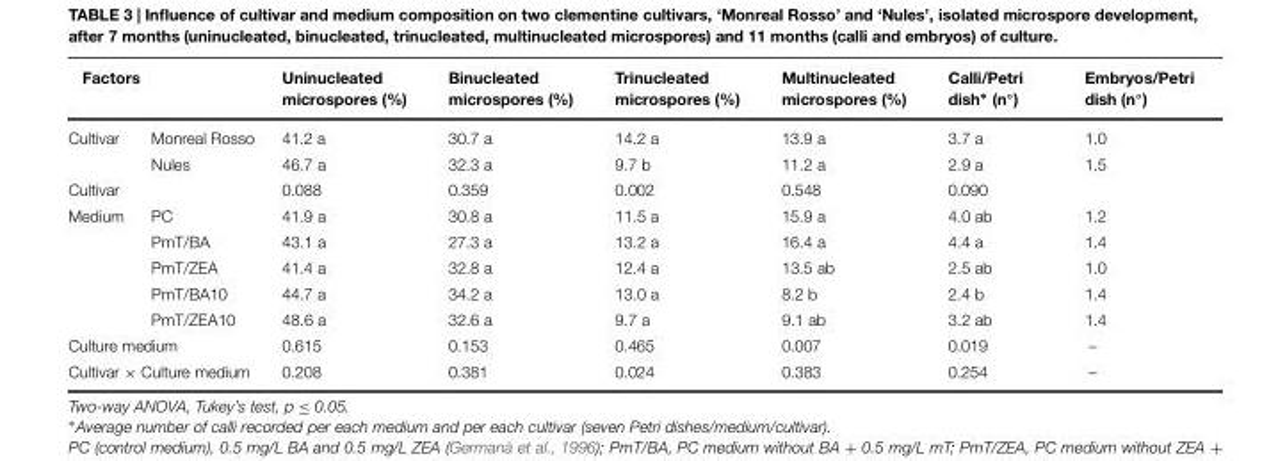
<table><thead><tr><td colspan="2">Factors</td><td rowspan="2">Uninucleated microspores (%) 41.2 a</td><td rowspan="2">Binucleated microspores (%) 30.7 a</td><td rowspan="2">Trinucleated microspores (%) 14.2 a</td><td rowspan="2">Multinucleated microspores (%) 13.9 a</td><td rowspan="2">Calli/Petri dish∗ (n◦) 3.7 a</td><td rowspan="2">Embryos/Petri dish (n◦) 1.0</td></tr><tr><td>Cultivar</td><td>Monreal Rosso</td></tr></thead><tbody><tr><td></td><td>Nules</td><td>46.7 a</td><td>32.3 a</td><td>9.7 b</td><td>11.2 a</td><td>2.9 a</td><td>1.5</td></tr><tr><td>Cultivar</td><td></td><td>0.088</td><td>0.359</td><td>0.002</td><td>0.548</td><td>0.090</td><td></td></tr><tr><td rowspan="5">Medium</td><td>PC</td><td>41.9 a</td><td>30.8 a</td><td>11.5 a</td><td>15.9 a</td><td>4.0 ab</td><td>1.2</td></tr><tr><td>PmT/BA</td><td>43.1 a</td><td>27.3 a</td><td>13.2 a</td><td>16.4 a</td><td>4.4 a</td><td>1.4</td></tr><tr><td>PmT/ZEA</td><td>41.4 a</td><td>32.8 a</td><td>12.4 a</td><td>13.5 ab</td><td>2.5 ab</td><td>1.0</td></tr><tr><td>PmT/BA10</td><td>44.7 a</td><td>34.2 a</td><td>13.0 a</td><td>8.2 b</td><td>2.4 b</td><td>1.4</td></tr><tr><td>PmT/ZEA10</td><td>48.6 a</td><td>32.6 a</td><td>9.7 a</td><td>9.1 ab</td><td>3.2 ab</td><td>1.4</td></tr><tr><td colspan="2">Culture medium</td><td>0.615</td><td>0.153</td><td>0.465</td><td>0.007</td><td>0.019</td><td>–</td></tr><tr><td colspan="2">Cultivar × Culture medium</td><td>0.208</td><td>0.381</td><td>0.024</td><td>0.383</td><td>0.254</td><td>–</td></tr></tbody></table>